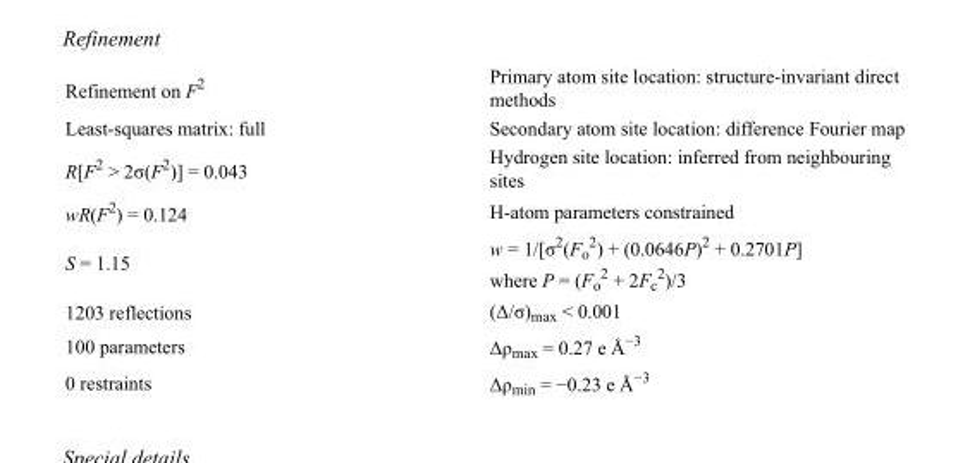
<table><tbody><tr><td>Refinement on F<sup>2</sup></td><td>Primary atom site location: structure-invariant direct methods</td></tr><tr><td>Least-squares matrix: full</td><td>Secondary atom site location: difference Fourier map</td></tr><tr><td>R[F<sup>2</sup> &gt; 2σ(F<sup>2</sup>)] = 0.043</td><td>Hydrogen site location: inferred from neighbouring sites</td></tr><tr><td>wR(F<sup>2</sup>) = 0.124</td><td>H-atom parameters constrained</td></tr><tr><td>S = 1.15</td><td>w = 1/[σ<sup>2</sup>(F<sub>o</sub> <sup>2</sup>) + (0.0646P)<sup>2</sup> + 0.2701P] where P = (F<sub>o</sub> <sup>2</sup> + 2F<sub>c</sub> <sup>2</sup>)/3</td></tr><tr><td>1203 reflections</td><td>(Δ/σ)<sub>max</sub> &lt; 0.001</td></tr><tr><td>100 parameters</td><td>Δρ<sub>max</sub> = 0.27 e Å<sup>−3</sup></td></tr><tr><td>0 restraints</td><td>Δρ<sub>min</sub> = −0.23 e Å<sup>−3</sup></td></tr></tbody></table>